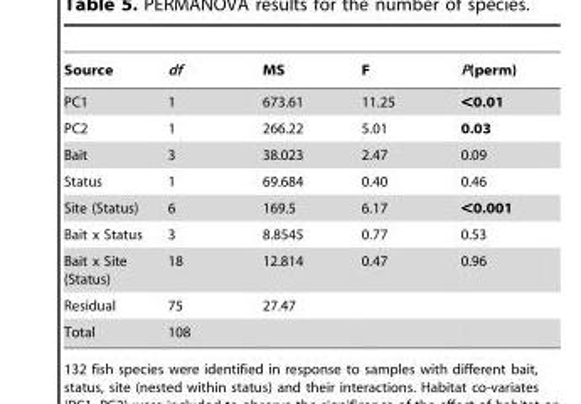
<table><thead><tr><td>Source</td><td>df</td><td>MS</td><td>F</td><td>P(perm)</td></tr></thead><tbody><tr><td>PC1</td><td>1</td><td>673.61</td><td>11.25</td><td>&lt;0.01</td></tr><tr><td>PC2</td><td>1</td><td>266.22</td><td>5.01</td><td>0.03</td></tr><tr><td>Bait</td><td>3</td><td>38.023</td><td>2.47</td><td>0.09</td></tr><tr><td>Status</td><td>1</td><td>69.684</td><td>0.40</td><td>0.46</td></tr><tr><td>Site (Status)</td><td>6</td><td>169.5</td><td>6.17</td><td>&lt;0.001</td></tr><tr><td>Bait x Status</td><td>3</td><td>8.8545</td><td>0.77</td><td>0.53</td></tr><tr><td>Bait x Site (Status)</td><td>18</td><td>12.814</td><td>0.47</td><td>0.96</td></tr><tr><td>Residual</td><td>75</td><td>27.47</td><td></td><td></td></tr><tr><td>Total</td><td>108</td><td></td><td></td><td></td></tr></tbody></table>